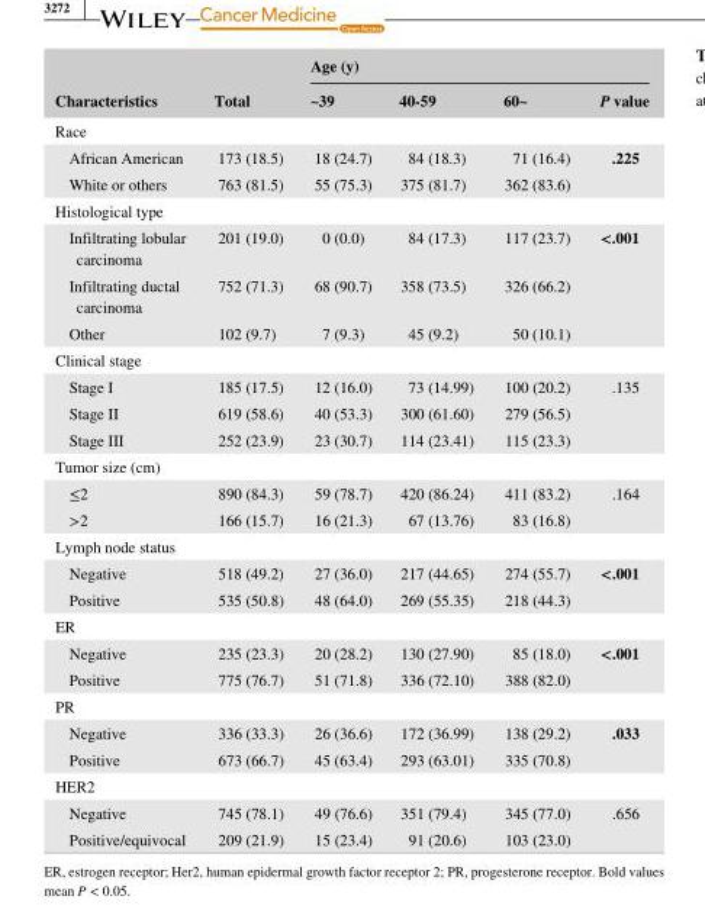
<table><thead><tr><td rowspan="2">Characteristics</td><td rowspan="2">Total</td><td colspan="4">Age (y)</td></tr><tr><td>~39</td><td>40- 59</td><td>60~</td><td>P value</td></tr></thead><tbody><tr><td colspan="6">Race</td></tr><tr><td>African American</td><td>173 (18.5)</td><td>18 (24.7)</td><td>84 (18.3)</td><td>71 (16.4)</td><td rowspan="2">.225</td></tr><tr><td>White or others</td><td>763 (81.5)</td><td>55 (75.3)</td><td>375 (81.7)</td><td>362 (83.6)</td></tr><tr><td colspan="6">Histological type</td></tr><tr><td>Infiltrating lobular carcinoma</td><td>201 (19.0)</td><td>0 (0.0)</td><td>84 (17.3)</td><td>117 (23.7)</td><td rowspan="3">&lt;.001</td></tr><tr><td>Infiltrating ductal carcinoma</td><td>752 (71.3)</td><td>68 (90.7)</td><td>358 (73.5)</td><td>326 (66.2)</td></tr><tr><td>Other</td><td>102 (9.7)</td><td>7 (9.3)</td><td>45 (9.2)</td><td>50 (10.1)</td></tr><tr><td colspan="6">Clinical stage</td></tr><tr><td>Stage I</td><td>185 (17.5)</td><td>12 (16.0)</td><td>73 (14.99)</td><td>100 (20.2)</td><td rowspan="3">.135</td></tr><tr><td>Stage II</td><td>619 (58.6)</td><td>40 (53.3)</td><td>300 (61.60)</td><td>279 (56.5)</td></tr><tr><td>Stage III</td><td>252 (23.9)</td><td>23 (30.7)</td><td>114 (23.41)</td><td>115 (23.3)</td></tr><tr><td colspan="6">Tumor size (cm)</td></tr><tr><td>≤2</td><td>890 (84.3)</td><td>59 (78.7)</td><td>420 (86.24)</td><td>411 (83.2)</td><td rowspan="2">.164</td></tr><tr><td>&gt;2</td><td>166 (15.7)</td><td>16 (21.3)</td><td>67 (13.76)</td><td>83 (16.8)</td></tr><tr><td colspan="6">Lymph node status</td></tr><tr><td>Negative</td><td>518 (49.2)</td><td>27 (36.0)</td><td>217 (44.65)</td><td>274 (55.7)</td><td rowspan="2">&lt;.001</td></tr><tr><td>Positive</td><td>535 (50.8)</td><td>48 (64.0)</td><td>269 (55.35)</td><td>218 (44.3)</td></tr><tr><td colspan="6">ER</td></tr><tr><td>Negative</td><td>235 (23.3)</td><td>20 (28.2)</td><td>130 (27.90)</td><td>85 (18.0)</td><td rowspan="2">&lt;.001</td></tr><tr><td>Positive</td><td>775 (76.7)</td><td>51 (71.8)</td><td>336 (72.10)</td><td>388 (82.0)</td></tr><tr><td colspan="6">PR</td></tr><tr><td>Negative</td><td>336 (33.3)</td><td>26 (36.6)</td><td>172 (36.99)</td><td>138 (29.2)</td><td rowspan="2">.033</td></tr><tr><td>Positive</td><td>673 (66.7)</td><td>45 (63.4)</td><td>293 (63.01)</td><td>335 (70.8)</td></tr><tr><td colspan="6">HER2</td></tr><tr><td>Negative</td><td>745 (78.1)</td><td>49 (76.6)</td><td>351 (79.4)</td><td>345 (77.0)</td><td rowspan="2">.656</td></tr><tr><td>Positive/equivocal</td><td>209 (21.9)</td><td>15 (23.4)</td><td>91 (20.6)</td><td>103 (23.0)</td></tr></tbody></table>